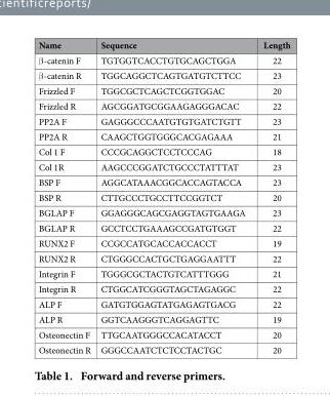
<table><thead><tr><td>Name</td><td>Sequence</td><td>Length</td></tr></thead><tbody><tr><td>β -catenin F</td><td>TGTGGTCACCTGTGCAGCTGGA</td><td>22</td></tr><tr><td>β -catenin R</td><td>TGGCAGGCTCAGTGATGTCTTCC</td><td>23</td></tr><tr><td>Frizzled F</td><td>TGGCGCTCAGCTCGGTGGAC</td><td>20</td></tr><tr><td>Frizzled R</td><td>AGCGGATGCGGAAGAGGGACAC</td><td>22</td></tr><tr><td>PP2A F</td><td>GAGGGCCCAATGTGTGATCTGTT</td><td>23</td></tr><tr><td>PP2A R</td><td>CAAGCTGGTGGGCACGAGAAA</td><td>21</td></tr><tr><td>Col 1 F</td><td>CCCGCAGGCTCCTCCCAG</td><td>18</td></tr><tr><td>Col 1R</td><td>AAGCCCGGATCTGCCCTATTTAT</td><td>23</td></tr><tr><td>BSP F</td><td>AGGCATAAACGGCACCAGTACCA</td><td>23</td></tr><tr><td>BSP R</td><td>CTTGCCCTGCCTTCCGGTCT</td><td>20</td></tr><tr><td>BGLAP F</td><td>GGAGGGCAGCGAGGTAGTGAAGA</td><td>23</td></tr><tr><td>BGLAP R</td><td>GCCTCCTGAAAGCCGATGTGGT</td><td>22</td></tr><tr><td>RUNX2 F</td><td>CCGCCATGCACCACCACCT</td><td>19</td></tr><tr><td>RUNX2 R</td><td>CTGGGCCACTGCTGAGGAATTT</td><td>22</td></tr><tr><td>Integrin F</td><td>TGGGCGCTACTGTCATTTGGG</td><td>21</td></tr><tr><td>Integrin R</td><td>CTGGCATCGGGTAGCTAGAGGC</td><td>22</td></tr><tr><td>ALP F</td><td>GATGTGGAGTATGAGAGTGACG</td><td>22</td></tr><tr><td>ALP R</td><td>GGTCAAGGGTCAGGAGTTC</td><td>19</td></tr><tr><td>Osteonectin F</td><td>TTGCAATGGGCCACATACCT</td><td>20</td></tr><tr><td>Osteonectin R</td><td>GGGCCAATCTCTCCTACTGC</td><td>20</td></tr></tbody></table>